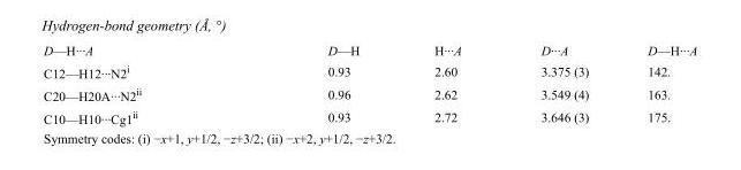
<table><tbody><tr><td>D—H···A</td><td>D—H</td><td>H···A</td><td>D···A</td><td>D—H···A</td></tr><tr><td>C12—H12···N2<sup>i</sup></td><td>0.93</td><td>2.60</td><td>3.375 (3)</td><td>142.</td></tr><tr><td>C20—H20A···N2<sup>ii</sup></td><td>0.96</td><td>2.62</td><td>3.549 (4)</td><td>163.</td></tr><tr><td>C10—H10···Cg1<sup>ii</sup></td><td>0.93</td><td>2.72</td><td>3.646 (3)</td><td>175.</td></tr></tbody></table>